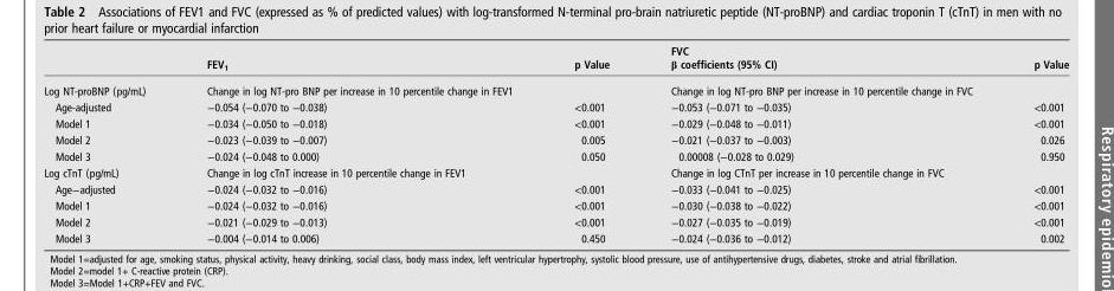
<table><thead><tr><td></td><td>FEV<sub>1</sub></td><td>p Value</td><td>FVC β coefficients (95% CI)</td><td>p Value</td></tr></thead><tbody><tr><td>Log NT-proBNP (pg/mL)</td><td>Change in log NT-pro BNP per increase in 10 percentile change in FEV1</td><td></td><td>Change in log NT-pro BNP per increase in 10 percentile change in FVC</td><td></td></tr><tr><td>Age-adjusted</td><td>−0.054 (−0.070 to −0.038)</td><td>&lt;0.001</td><td>−0.053 (−0.071 to −0.035)</td><td>&lt;0.001</td></tr><tr><td>Model 1</td><td>−0.034 (−0.050 to −0.018)</td><td>&lt;0.001</td><td>−0.029 (−0.048 to −0.011)</td><td>&lt;0.001</td></tr><tr><td>Model 2</td><td>−0.023 (−0.039 to −0.007)</td><td>0.005</td><td>−0.021 (−0.037 to −0.003)</td><td>0.026</td></tr><tr><td>Model 3</td><td>−0.024 (−0.048 to 0.000)</td><td>0.050</td><td>0.00008 (−0.028 to 0.029)</td><td>0.950</td></tr><tr><td>Log cTnT (pg/mL)</td><td>Change in log cTnT increase in 10 percentile change in FEV1</td><td></td><td>Change in log CTnT per increase in 10 percentile change in FVC</td><td></td></tr><tr><td>Age−adjusted</td><td>−0.024 (−0.032 to −0.016)</td><td>&lt;0.001</td><td>−0.033 (−0.041 to −0.025)</td><td>&lt;0.001</td></tr><tr><td>Model 1</td><td>−0.024 (−0.032 to −0.016)</td><td>&lt;0.001</td><td>−0.030 (−0.038 to −0.022)</td><td>&lt;0.001</td></tr><tr><td>Model 2</td><td>−0.021 (−0.029 to −0.013)</td><td>&lt;0.001</td><td>−0.027 (−0.035 to −0.019)</td><td>&lt;0.001</td></tr><tr><td>Model 3</td><td>−0.004 (−0.014 to 0.006)</td><td>0.450</td><td>−0.024 (−0.036 to −0.012)</td><td>0.002</td></tr></tbody></table>